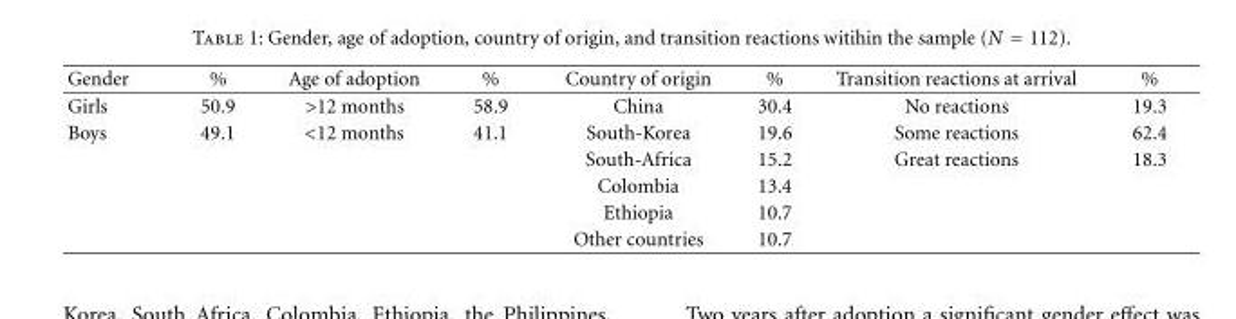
<table><thead><tr><td>Gender</td><td>%</td><td>Age of adoption</td><td>%</td><td>Country of origin</td><td>%</td><td>Transition reactions at arrival</td><td>%</td></tr></thead><tbody><tr><td>Girls</td><td>50.9</td><td>&gt;12 months</td><td>58.9</td><td>China</td><td>30.4</td><td>No reactions</td><td>19.3</td></tr><tr><td rowspan="5">Boys</td><td>49.1</td><td>&lt;12 months</td><td>41.1</td><td>South-Korea</td><td>19.6</td><td>Some reactions</td><td>62.4</td></tr><tr><td></td><td></td><td></td><td>South-Africa</td><td>15.2</td><td>Great reactions</td><td>18.3</td></tr><tr><td></td><td></td><td></td><td>Colombia</td><td>13.4</td><td></td><td></td></tr><tr><td></td><td></td><td></td><td>Ethiopia</td><td>10.7</td><td></td><td></td></tr><tr><td></td><td></td><td></td><td>Other countries</td><td>10.7</td><td></td><td></td></tr></tbody></table>